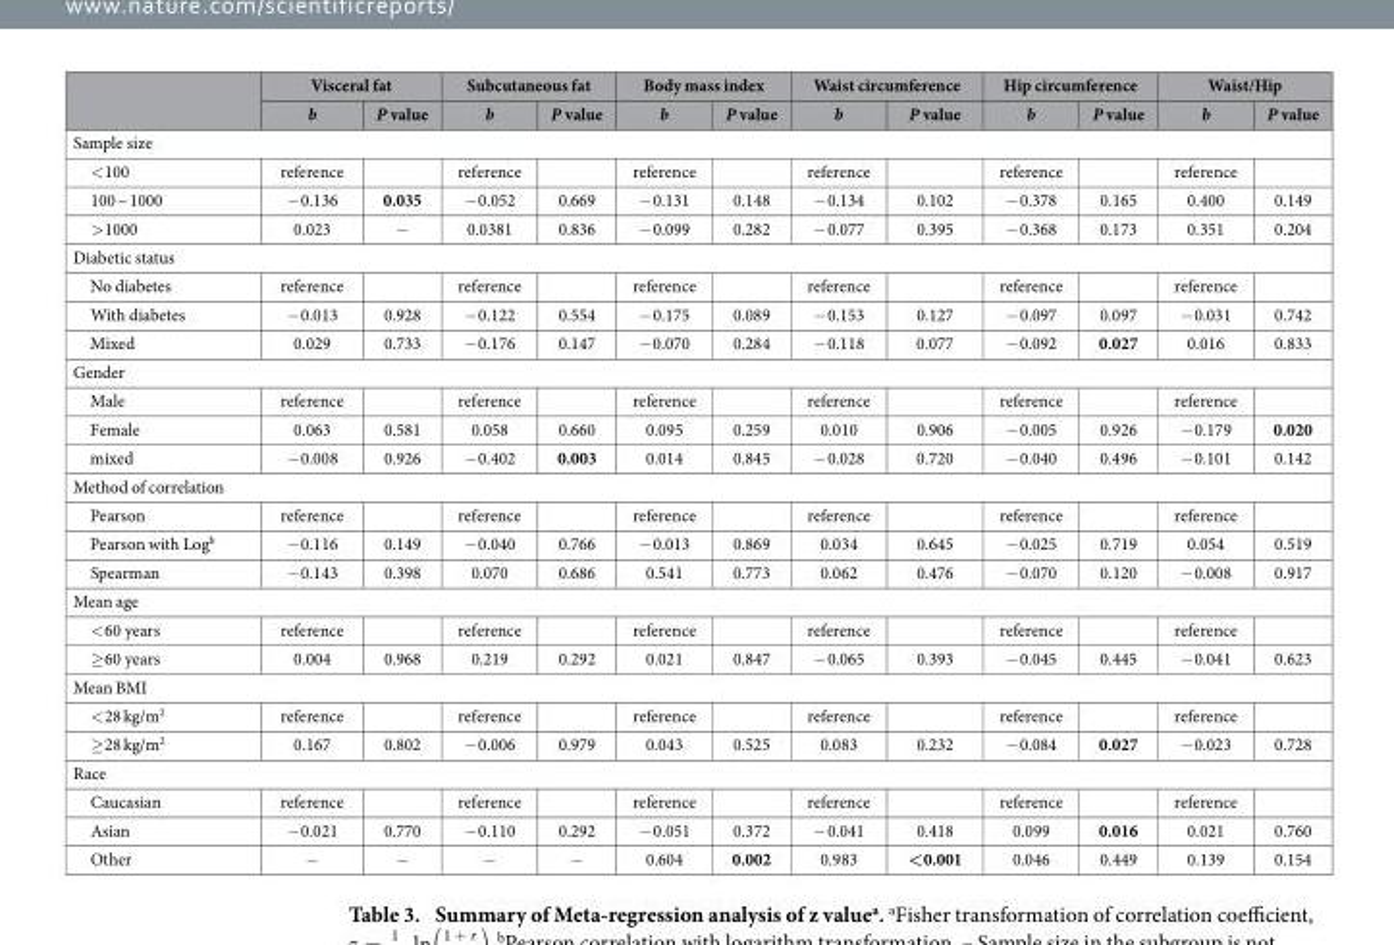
<table><thead><tr><td rowspan="2"></td><td colspan="2">Visceral fat</td><td colspan="2">Subcutaneous fat</td><td colspan="2">Body mass index</td><td colspan="2">Waist circumference</td><td colspan="2">Hip circumference</td><td colspan="2">Waist/Hip</td></tr><tr><td>b</td><td>P value</td><td>b</td><td>P value</td><td>b</td><td>P value</td><td>b</td><td>P value</td><td>b</td><td>P value</td><td>b</td><td>P value</td></tr></thead><tbody><tr><td colspan="13">Sample size</td></tr><tr><td>&lt; 100</td><td>reference</td><td></td><td>reference</td><td></td><td>reference</td><td></td><td>reference</td><td></td><td>reference</td><td></td><td>reference</td><td></td></tr><tr><td>100 ~ 1000</td><td>− 0.136</td><td>0.035</td><td>− 0.052</td><td>0.669</td><td>− 0.131</td><td>0.148</td><td>− 0.134</td><td>0.102</td><td>− 0.378</td><td>0.165</td><td>0.400</td><td>0.149</td></tr><tr><td>&gt; 1000</td><td>0.023</td><td>−</td><td>0.0381</td><td>0.836</td><td>− 0.099</td><td>0.282</td><td>− 0.077</td><td>0.395</td><td>− 0.368</td><td>0.173</td><td>0.351</td><td>0.204</td></tr><tr><td colspan="13">Diabetic status</td></tr><tr><td>No diabetes</td><td>reference</td><td></td><td>reference</td><td></td><td>reference</td><td></td><td>reference</td><td></td><td>reference</td><td></td><td>reference</td><td></td></tr><tr><td>With diabetes</td><td>− 0.013</td><td>0.928</td><td>− 0.122</td><td>0.554</td><td>− 0.175</td><td>0.089</td><td>− 0.153</td><td>0.127</td><td>− 0.097</td><td>0.097</td><td>− 0.031</td><td>0.742</td></tr><tr><td>Mixed</td><td>0.029</td><td>0.733</td><td>− 0.176</td><td>0.147</td><td>− 0.070</td><td>0.284</td><td>− 0.118</td><td>0.077</td><td>− 0.092</td><td>0.027</td><td>0.016</td><td>0.833</td></tr><tr><td colspan="13">Gender</td></tr><tr><td>Male</td><td>reference</td><td></td><td>reference</td><td></td><td>reference</td><td></td><td>reference</td><td></td><td>reference</td><td></td><td>reference</td><td></td></tr><tr><td>Female</td><td>0.063</td><td>0.581</td><td>0.058</td><td>0.660</td><td>0.095</td><td>0.259</td><td>0.010</td><td>0.906</td><td>− 0.005</td><td>0.926</td><td>− 0.179</td><td>0.020</td></tr><tr><td>mixed</td><td>− 0.008</td><td>0.926</td><td>− 0.402</td><td>0.003</td><td>0.014</td><td>0.845</td><td>− 0.028</td><td>0.720</td><td>− 0.040</td><td>0.496</td><td>− 0.101</td><td>0.142</td></tr><tr><td colspan="13">Method of correlation</td></tr><tr><td>Pearson</td><td>reference</td><td></td><td>reference</td><td></td><td>reference</td><td></td><td>reference</td><td></td><td>reference</td><td></td><td>reference</td><td></td></tr><tr><td>Pearson with Log<sup>b</sup></td><td>− 0.116</td><td>0.149</td><td>− 0.040</td><td>0.766</td><td>− 0.013</td><td>0.869</td><td>0.034</td><td>0.645</td><td>− 0.025</td><td>0.719</td><td>0.054</td><td>0.519</td></tr><tr><td>Spearman</td><td>− 0.143</td><td>0.398</td><td>0.070</td><td>0.686</td><td>0.541</td><td>0.773</td><td>0.062</td><td>0.476</td><td>− 0.070</td><td>0.120</td><td>− 0.008</td><td>0.917</td></tr><tr><td colspan="13">Mean age</td></tr><tr><td>&lt; 60 years</td><td>reference</td><td></td><td>reference</td><td></td><td>reference</td><td></td><td>reference</td><td></td><td>reference</td><td></td><td>reference</td><td></td></tr><tr><td>≥ 60 years</td><td>0.004</td><td>0.968</td><td>0.219</td><td>0.292</td><td>0.021</td><td>0.847</td><td>− 0.065</td><td>0.393</td><td>− 0.045</td><td>0.445</td><td>− 0.041</td><td>0.623</td></tr><tr><td colspan="13">Mean BMI</td></tr><tr><td>&lt; 28 kg/m<sup>2</sup></td><td>reference</td><td></td><td>reference</td><td></td><td>reference</td><td></td><td>reference</td><td></td><td>reference</td><td></td><td>reference</td><td></td></tr><tr><td>≥ 28 kg/m<sup>2</sup></td><td>0.167</td><td>0.802</td><td>− 0.006</td><td>0.979</td><td>0.043</td><td>0.525</td><td>0.083</td><td>0.232</td><td>− 0.084</td><td>0.027</td><td>− 0.023</td><td>0.728</td></tr><tr><td colspan="13">Race</td></tr><tr><td>Caucasian</td><td>reference</td><td></td><td>reference</td><td></td><td>reference</td><td></td><td>reference</td><td></td><td>reference</td><td></td><td>reference</td><td></td></tr><tr><td>Asian</td><td>− 0.021</td><td>0.770</td><td>− 0.110</td><td>0.292</td><td>− 0.051</td><td>0.372</td><td>− 0.041</td><td>0.418</td><td>0.099</td><td>0.016</td><td>0.021</td><td>0.760</td></tr><tr><td>Other</td><td>−</td><td>−</td><td>−</td><td>−</td><td>0.604</td><td>0.002</td><td>0.983</td><td>&lt;0.001</td><td>0.046</td><td>0.449</td><td>0.139</td><td>0.154</td></tr></tbody></table>